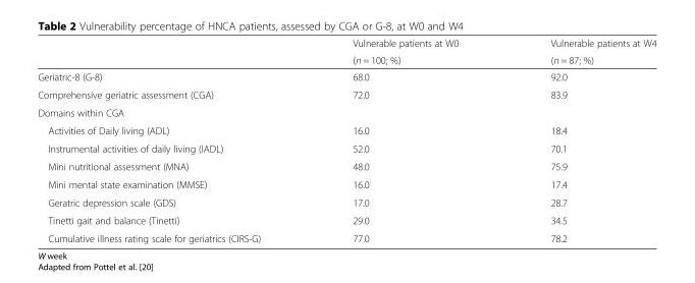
<table><thead><tr><td rowspan="2"></td><td rowspan="2">Vulnerable patients at W0 (n = 100; %)</td><td rowspan="2">Vulnerable patients at W4 (n = 87; %)</td></tr><tr></tr></thead><tbody><tr><td>Geriatric-8 (G-8)</td><td>68.0</td><td>92.0</td></tr><tr><td>Comprehensive geriatric assessment (CGA)</td><td>72.0</td><td>83.9</td></tr><tr><td colspan="3">Domains within CGA</td></tr><tr><td>Activities of Daily living (ADL)</td><td>16.0</td><td>18.4</td></tr><tr><td>Instrumental activities of daily living (IADL)</td><td>52.0</td><td>70.1</td></tr><tr><td>Mini nutritional assessment (MNA)</td><td>48.0</td><td>75.9</td></tr><tr><td>Mini mental state examination (MMSE)</td><td>16.0</td><td>17.4</td></tr><tr><td>Geratric depression scale (GDS)</td><td>17.0</td><td>28.7</td></tr><tr><td>Tinetti gait and balance (Tinetti)</td><td>29.0</td><td>34.5</td></tr><tr><td>Cumulative illness rating scale for geriatrics (CIRS-G)</td><td>77.0</td><td>78.2</td></tr></tbody></table>